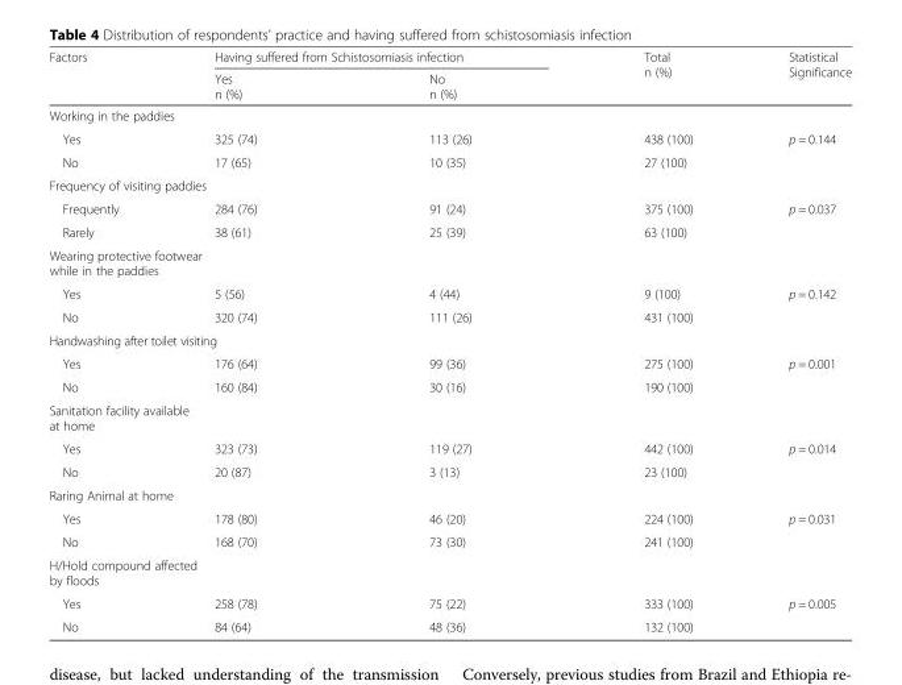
<table><thead><tr><td rowspan="2">Factors</td><td colspan="2">Having suffered from Schistosomiasis infection</td><td rowspan="2">Total n (%)</td><td rowspan="2">Statistical Significance</td></tr><tr><td>Yes n (%)</td><td>No n (%)</td></tr></thead><tbody><tr><td colspan="5">Working in the paddies</td></tr><tr><td>Yes</td><td>325 (74)</td><td>113 (26)</td><td>438 (100)</td><td rowspan="2">p = 0.144</td></tr><tr><td>No</td><td>17 (65)</td><td>10 (35)</td><td>27 (100)</td></tr><tr><td colspan="5">Frequency of visiting paddies</td></tr><tr><td>Frequently</td><td>284 (76)</td><td>91 (24)</td><td>375 (100)</td><td rowspan="2">p = 0.037</td></tr><tr><td>Rarely</td><td>38 (61)</td><td>25 (39)</td><td>63 (100)</td></tr><tr><td colspan="5">Wearing protective footwear while in the paddies</td></tr><tr><td>Yes</td><td>5 (56)</td><td>4 (44)</td><td>9 (100)</td><td rowspan="2">p = 0.142</td></tr><tr><td>No</td><td>320 (74)</td><td>111 (26)</td><td>431 (100)</td></tr><tr><td colspan="5">Handwashing after toilet visiting</td></tr><tr><td>Yes</td><td>176 (64)</td><td>99 (36)</td><td>275 (100)</td><td rowspan="2">p = 0.001</td></tr><tr><td>No</td><td>160 (84)</td><td>30 (16)</td><td>190 (100)</td></tr><tr><td colspan="5">Sanitation facility available at home</td></tr><tr><td>Yes</td><td>323 (73)</td><td>119 (27)</td><td>442 (100)</td><td rowspan="2">p = 0.014</td></tr><tr><td>No</td><td>20 (87)</td><td>3 (13)</td><td>23 (100)</td></tr><tr><td colspan="5">Raring Animal at home</td></tr><tr><td>Yes</td><td>178 (80)</td><td>46 (20)</td><td>224 (100)</td><td rowspan="2">p = 0.031</td></tr><tr><td>No</td><td>168 (70)</td><td>73 (30)</td><td>241 (100)</td></tr><tr><td colspan="5">H/Hold compound affected by floods</td></tr><tr><td>Yes</td><td>258 (78)</td><td>75 (22)</td><td>333 (100)</td><td rowspan="2">p = 0.005</td></tr><tr><td>No</td><td>84 (64)</td><td>48 (36)</td><td>132 (100)</td></tr></tbody></table>